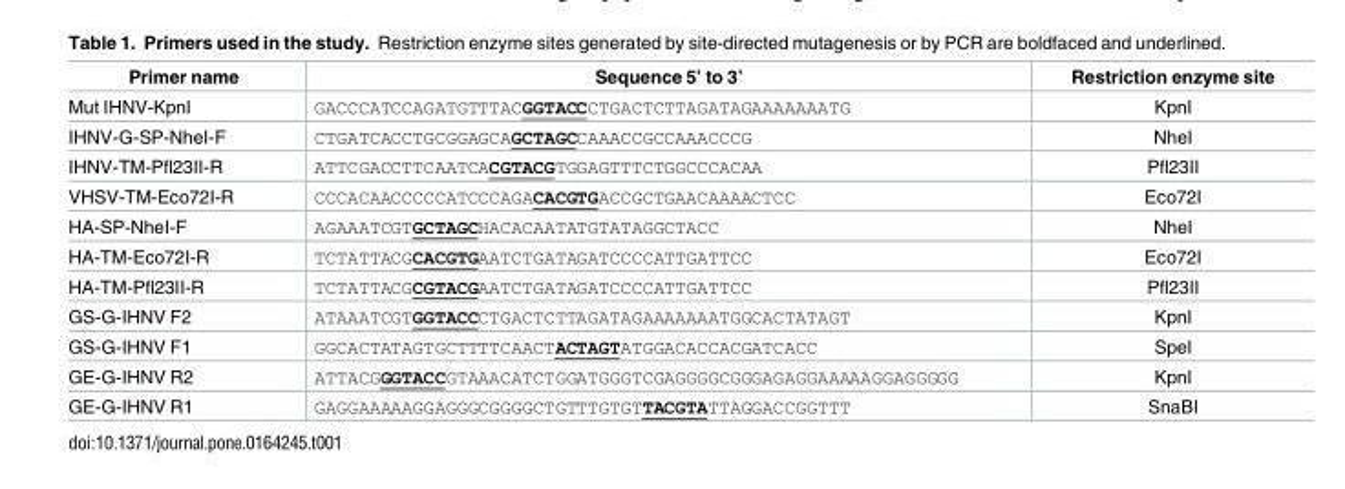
<table><thead><tr><td>Primer name</td><td>Sequence 5’ to 3’</td><td>Restriction enzyme site</td></tr></thead><tbody><tr><td>Mut IHNV-KpnI</td><td>GACCCATCCAGATGTTTACGGTACCCTGACTCTTAGATAGAAAAAAATG</td><td>KpnI</td></tr><tr><td>IHNV-G-SP-NheI-F</td><td>CTGATCACCTGCGGAGCAGCTAGCCAAACCGCCAAACCCG</td><td>NheI</td></tr><tr><td>IHNV-TM-Pfl23II-R</td><td>ATTCGACCTTCAATCACGTACGTGGAGTTTCTGGCCCACAA</td><td>Pfl23II</td></tr><tr><td>VHSV-TM-Eco72I-R</td><td>CCCACAACCCCCATCCCAGACACGTGACCGCTGAACAAAACTCC</td><td>Eco72I</td></tr><tr><td>HA-SP-NheI-F</td><td>AGAAATCGTGCTAGCHACACAATATGTATAGGCTACC</td><td>NheI</td></tr><tr><td>HA-TM-Eco72I-R</td><td>TCTATTACGCACGTGAATCTGATAGATCCCCATTGATTCC</td><td>Eco72I</td></tr><tr><td>HA-TM-Pfl23II-R</td><td>TCTATTACGCGTACGAATCTGATAGATCCCCATTGATTCC</td><td>Pfl23II</td></tr><tr><td>GS-G-IHNV F2</td><td>ATAAATCGTGGTACCCTGACTCTTAGATAGAAAAAAATGGCACTATAGT</td><td>KpnI</td></tr><tr><td>GS-G-IHNV F1</td><td>GGCACTATAGTGCTTTTCAACTACTAGTATGGACACCACGATCACC</td><td>SpeI</td></tr><tr><td>GE-G-IHNV R2</td><td>ATTACGGGTACCGTAAACATCTGGATGGGTCGAGGGGCGGGAGAGGAAAAAGGAGGGGG</td><td>KpnI</td></tr><tr><td>GE-G-IHNV R1</td><td>GAGGAAAAAGGAGGGCGGGGCTGTTTGTGTTACGTATTAGGACCGGTTT</td><td>SnaBI</td></tr></tbody></table>